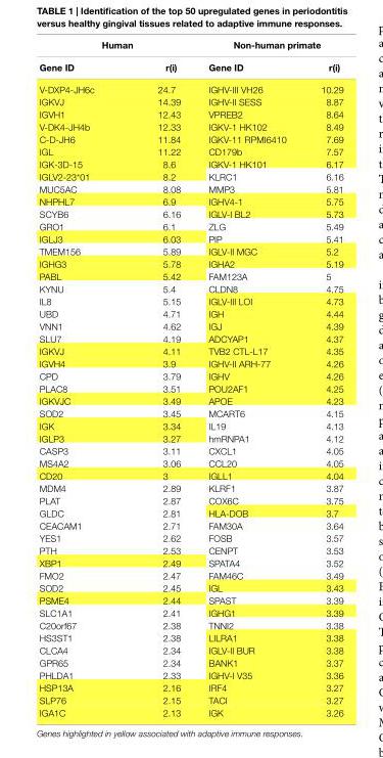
<table><thead><tr><td colspan="2">human</td><td colspan="2">non-human primate</td></tr><tr><td>gene iD</td><td>r(i)</td><td>gene iD</td><td>r(i)</td></tr></thead><tbody><tr><td>V-DXP4-JH6c</td><td>24.7</td><td>IGHV-III VH26</td><td>10.29</td></tr><tr><td>IGKVJ</td><td>14.39</td><td>IGHV-II SESS</td><td>8.87</td></tr><tr><td>IGVH1</td><td>12.43</td><td>VPREB2</td><td>8.64</td></tr><tr><td>V-DK4-JH4b</td><td>12.33</td><td>IGKV-1 HK102</td><td>8.49</td></tr><tr><td>C-D-JH6</td><td>11.84</td><td>IGKV-11 RPMI6410</td><td>7.69</td></tr><tr><td>IGL</td><td>11.22</td><td>CD179b</td><td>7.57</td></tr><tr><td>IGK-3D-15</td><td>8.6</td><td>IGKV-1 HK101</td><td>6.17</td></tr><tr><td>IGLV2-23*01</td><td>8.2</td><td>KLRC1</td><td>6.16</td></tr><tr><td>MUC5AC</td><td>8.08</td><td>MMP3</td><td>5.81</td></tr><tr><td>NHPHL7</td><td>6.9</td><td>IGHV4-1</td><td>5.75</td></tr><tr><td>SCYB6</td><td>6.16</td><td>IGLV-I BL2</td><td>5.73</td></tr><tr><td>GRO1</td><td>6.1</td><td>ZLG</td><td>5.49</td></tr><tr><td>IGLJ3</td><td>6.03</td><td>PIP</td><td>5.41</td></tr><tr><td>TMEM156</td><td>5.89</td><td>IGLV-II MGC</td><td>5.2</td></tr><tr><td>IGHG3</td><td>5.78</td><td>IGHA2</td><td>5.19</td></tr><tr><td>PABL</td><td>5.42</td><td>FAM123A</td><td>5</td></tr><tr><td>KYNU</td><td>5.4</td><td>CLDN8</td><td>4.75</td></tr><tr><td>IL8</td><td>5.15</td><td>IGLV-III LOI</td><td>4.73</td></tr><tr><td>UBD</td><td>4.71</td><td>IGH</td><td>4.44</td></tr><tr><td>VNN1</td><td>4.62</td><td>IGJ</td><td>4.39</td></tr><tr><td>SLU7</td><td>4.19</td><td>ADCYAP1</td><td>4.37</td></tr><tr><td>IGKVJ</td><td>4.11</td><td>TVB2 CTL-L17</td><td>4.35</td></tr><tr><td>IGVH4</td><td>3.9</td><td>IGHV-II ARH-77</td><td>4.26</td></tr><tr><td>CPD</td><td>3.79</td><td>IGHV</td><td>4.26</td></tr><tr><td>PLAC8</td><td>3.51</td><td>POU2AF1</td><td>4.25</td></tr><tr><td>IGKVJC</td><td>3.49</td><td>APOE</td><td>4.23</td></tr><tr><td>SOD2</td><td>3.45</td><td>MCART6</td><td>4.15</td></tr><tr><td>IGK</td><td>3.34</td><td>IL19</td><td>4.13</td></tr><tr><td>IGLP3</td><td>3.27</td><td>hmRNPA1</td><td>4.12</td></tr><tr><td>CASP3</td><td>3.11</td><td>CXCL1</td><td>4.05</td></tr><tr><td>MS4A2</td><td>3.06</td><td>CCL20</td><td>4.05</td></tr><tr><td>CD20</td><td>3</td><td>IGLL1</td><td>4.04</td></tr><tr><td>MDM4</td><td>2.89</td><td>KLRF1</td><td>3.87</td></tr><tr><td>PLAT</td><td>2.87</td><td>COX6C</td><td>3.75</td></tr><tr><td>GLDC</td><td>2.81</td><td>HLA-DOB</td><td>3.7</td></tr><tr><td>CEACAM1</td><td>2.71</td><td>FAM30A</td><td>3.64</td></tr><tr><td>YES1</td><td>2.62</td><td>FOSB</td><td>3.57</td></tr><tr><td>PTH</td><td>2.53</td><td>CENPT</td><td>3.53</td></tr><tr><td>XBP1</td><td>2.49</td><td>SPATA4</td><td>3.52</td></tr><tr><td>FMO2</td><td>2.47</td><td>FAM46C</td><td>3.49</td></tr><tr><td>SOD2</td><td>2.45</td><td>IGL</td><td>3.43</td></tr><tr><td>PSME4</td><td>2.44</td><td>SPAST</td><td>3.39</td></tr><tr><td>SLC1A1</td><td>2.41</td><td>IGHG1</td><td>3.39</td></tr><tr><td>C20orf67</td><td>2.38</td><td>TNNI2</td><td>3.38</td></tr><tr><td>HS3ST1</td><td>2.38</td><td>LILRA1</td><td>3.38</td></tr><tr><td>CLCA4</td><td>2.34</td><td>IGLV-II BUR</td><td>3.38</td></tr><tr><td>GPR65</td><td>2.34</td><td>BANK1</td><td>3.37</td></tr><tr><td>PHLDA1</td><td>2.33</td><td>IGHV-I V35</td><td>3.36</td></tr><tr><td>HSP13A</td><td>2.16</td><td>IRF4</td><td>3.27</td></tr><tr><td>SLP76</td><td>2.15</td><td>TACI</td><td>3.27</td></tr><tr><td>IGA1C</td><td>2.13</td><td>IGK</td><td>3.26</td></tr></tbody></table>